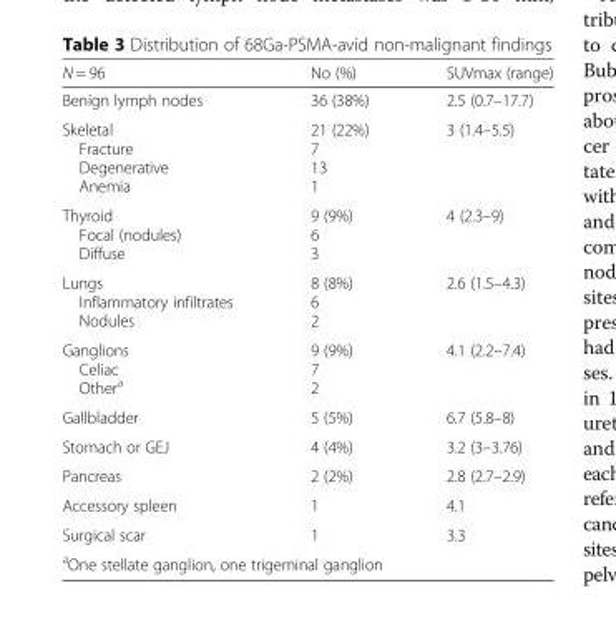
<table><thead><tr><td>N = 96</td><td>No (%)</td><td>SUVmax (range)</td></tr></thead><tbody><tr><td>Benign lymph nodes</td><td>36 (38%)</td><td>2.5 (0.7–17.7)</td></tr><tr><td>Skeletal Fracture Degenerative Anemia</td><td>21 (22%) 7 13 1</td><td>3 (1.4–5.5)</td></tr><tr><td>Thyroid Focal (nodules) Diffuse</td><td>9 (9%) 6 3</td><td>4 (2.3–9)</td></tr><tr><td>Lungs Inflammatory infiltrates Nodules</td><td>8 (8%) 6 2</td><td>2.6 (1.5–4.3)</td></tr><tr><td>Ganglions Celiac Other<sup>a</sup></td><td>9 (9%) 7 2</td><td>4.1 (2.2–7.4)</td></tr><tr><td>Gallbladder</td><td>5 (5%)</td><td>6.7 (5.8–8)</td></tr><tr><td>Stomach or GEJ</td><td>4 (4%)</td><td>3.2 (3–3.76)</td></tr><tr><td>Pancreas</td><td>2 (2%)</td><td>2.8 (2.7–2.9)</td></tr><tr><td>Accessory spleen</td><td>1</td><td>4.1</td></tr><tr><td>Surgical scar</td><td>1</td><td>3.3</td></tr><tr><td colspan="3"><sup>a</sup>One stellate ganglion, one trigeminal ganglion</td></tr></tbody></table>